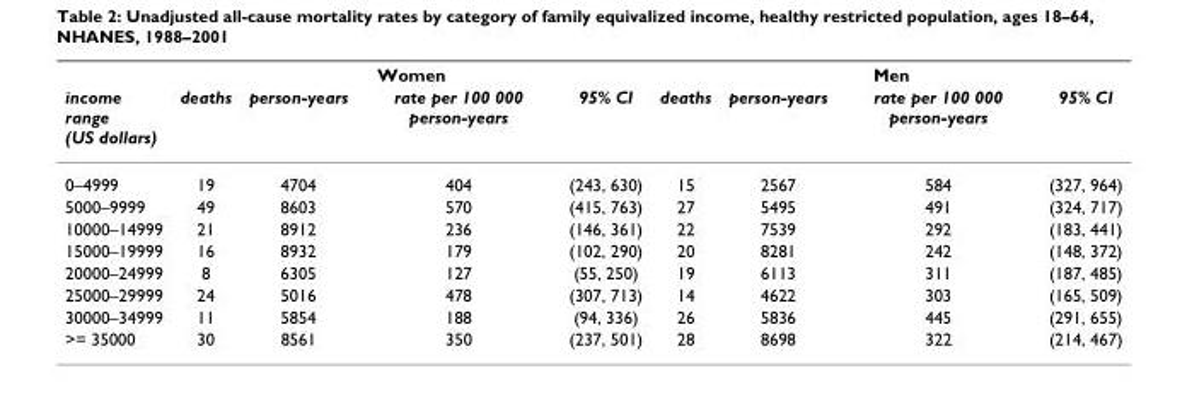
<table><thead><tr><td rowspan="2">income range (US dollars)</td><td colspan="4">Women</td><td colspan="4">Men</td></tr><tr><td>deaths</td><td>person-years</td><td>rate per 100 000 person-years</td><td>95% CI</td><td>deaths</td><td>person-years</td><td>rate per 100 000 person-years</td><td>95% CI</td></tr></thead><tbody><tr><td>0–4999</td><td>19</td><td>4704</td><td>404</td><td>(243, 630)</td><td>15</td><td>2567</td><td>584</td><td>(327, 964)</td></tr><tr><td>5000–9999</td><td>49</td><td>8603</td><td>570</td><td>(415, 763)</td><td>27</td><td>5495</td><td>491</td><td>(324, 717)</td></tr><tr><td>10000–14999</td><td>21</td><td>8912</td><td>236</td><td>(146, 361)</td><td>22</td><td>7539</td><td>292</td><td>(183, 441)</td></tr><tr><td>15000–19999</td><td>16</td><td>8932</td><td>179</td><td>(102, 290)</td><td>20</td><td>8281</td><td>242</td><td>(148, 372)</td></tr><tr><td>20000–24999</td><td>8</td><td>6305</td><td>127</td><td>(55, 250)</td><td>19</td><td>6113</td><td>311</td><td>(187, 485)</td></tr><tr><td>25000–29999</td><td>24</td><td>5016</td><td>478</td><td>(307, 713)</td><td>14</td><td>4622</td><td>303</td><td>(165, 509)</td></tr><tr><td>30000–34999</td><td>11</td><td>5854</td><td>188</td><td>(94, 336)</td><td>26</td><td>5836</td><td>445</td><td>(291, 655)</td></tr><tr><td>&gt;= 35000</td><td>30</td><td>8561</td><td>350</td><td>(237, 501)</td><td>28</td><td>8698</td><td>322</td><td>(214, 467)</td></tr></tbody></table>